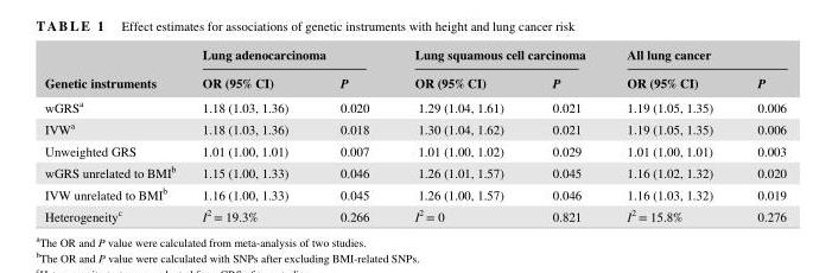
<table><thead><tr><td rowspan="2">Genetic instruments</td><td colspan="2">Lung adenocarcinoma</td><td colspan="2">Lung squamous cell carcinoma</td><td colspan="2">All lung cancer</td></tr><tr><td>OR (95% CI)</td><td>P</td><td>OR (95% CI)</td><td>P</td><td>OR (95% CI)</td><td>P</td></tr></thead><tbody><tr><td>wGRS<sup>a</sup></td><td>1.18 (1.03, 1.36)</td><td>0.020</td><td>1.29 (1.04, 1.61)</td><td>0.021</td><td>1.19 (1.05, 1.35)</td><td>0.006</td></tr><tr><td>IVW<sup>a</sup></td><td>1.18 (1.03, 1.36)</td><td>0.018</td><td>1.30 (1.04, 1.62)</td><td>0.021</td><td>1.19 (1.05, 1.35)</td><td>0.006</td></tr><tr><td>Unweighted GRS</td><td>1.01 (1.00, 1.01)</td><td>0.007</td><td>1.01 (1.00, 1.02)</td><td>0.029</td><td>1.01 (1.00, 1.01)</td><td>0.003</td></tr><tr><td>wGRS unrelated to BMI<sup>b</sup></td><td>1.15 (1.00, 1.33)</td><td>0.046</td><td>1.26 (1.01, 1.57)</td><td>0.045</td><td>1.16 (1.02, 1.32)</td><td>0.020</td></tr><tr><td>IVW unrelated to BMI<sup>b</sup></td><td>1.16 (1.00, 1.33)</td><td>0.045</td><td>1.26 (1.00, 1.57)</td><td>0.046</td><td>1.16 (1.03, 1.32)</td><td>0.019</td></tr><tr><td>Heterogeneity<sup>c</sup></td><td>I<sup>2</sup> = 19.3%</td><td>0.266</td><td>I<sup>2</sup> = 0</td><td>0.821</td><td>I<sup>2</sup> = 15.8%</td><td>0.276</td></tr></tbody></table>